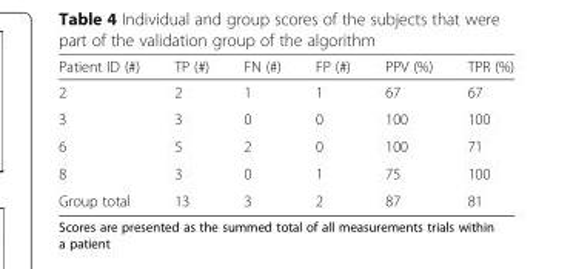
<table><thead><tr><td>Patient ID (#)</td><td>TP (#)</td><td>FN (#)</td><td>FP (#)</td><td>PPV (%)</td><td>TPR (%)</td></tr></thead><tbody><tr><td>2</td><td>2</td><td>1</td><td>1</td><td>67</td><td>67</td></tr><tr><td>3</td><td>3</td><td>0</td><td>0</td><td>100</td><td>100</td></tr><tr><td>6</td><td>5</td><td>2</td><td>0</td><td>100</td><td>71</td></tr><tr><td>8</td><td>3</td><td>0</td><td>1</td><td>75</td><td>100</td></tr><tr><td>Group total</td><td>13</td><td>3</td><td>2</td><td>87</td><td>81</td></tr></tbody></table>